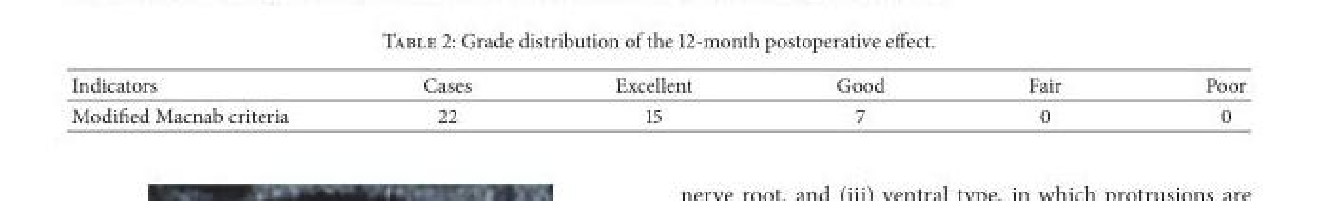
<table><thead><tr><td>Indicators</td><td>Cases</td><td>Excellent</td><td>Good</td><td>Fair</td><td>Poor</td></tr></thead><tbody><tr><td>Modified Macnab criteria</td><td>22</td><td>15</td><td>7</td><td>0</td><td>0</td></tr></tbody></table>